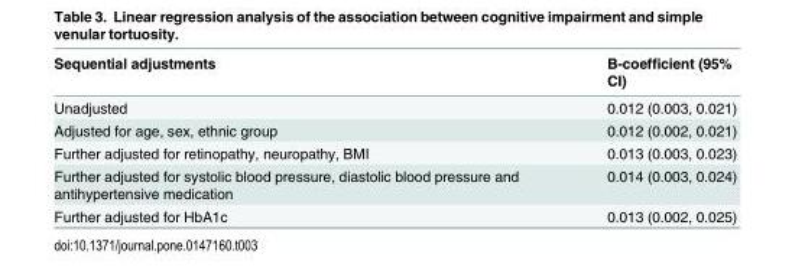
<table><thead><tr><td>Sequential adjustments</td><td>B-coefficient (95% CI)</td></tr></thead><tbody><tr><td>Unadjusted</td><td>0.012 (0.003, 0.021)</td></tr><tr><td>Adjusted for age, sex, ethnic group</td><td>0.012 (0.002, 0.021)</td></tr><tr><td>Further adjusted for retinopathy, neuropathy, BMI</td><td>0.013 (0.003, 0.023)</td></tr><tr><td>Further adjusted for systolic blood pressure, diastolic blood pressure and antihypertensive medication</td><td>0.014 (0.003, 0.024)</td></tr><tr><td>Further adjusted for HbA1c</td><td>0.013 (0.002, 0.025)</td></tr></tbody></table>